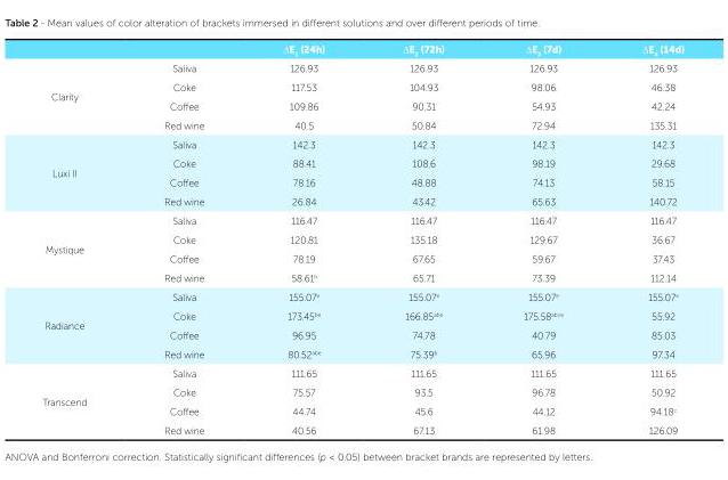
<table><thead><tr><td></td><td></td><td>ΔE<sub>1</sub> (24h)</td><td>ΔE<sub>2</sub> (72h)</td><td>ΔE<sub>3</sub> (7d)</td><td>ΔE<sub>4</sub> (14d)</td></tr></thead><tbody><tr><td rowspan="4">Clarity</td><td>Saliva</td><td>126.93</td><td>126.93</td><td>126.93</td><td>126.93</td></tr><tr><td>Coke</td><td>117.53</td><td>104.93</td><td>98.06</td><td>46.38</td></tr><tr><td>Coffee</td><td>109.86</td><td>90.31</td><td>54.93</td><td>42.24</td></tr><tr><td>Red wine</td><td>40.5</td><td>50.84</td><td>72.94</td><td>135.31</td></tr><tr><td rowspan="4">Luxi II</td><td>Saliva</td><td>142.3</td><td>142.3</td><td>142.3</td><td>142.3</td></tr><tr><td>Coke</td><td>88.41</td><td>108.6</td><td>98.19</td><td>29.68</td></tr><tr><td>Coffee</td><td>78.16</td><td>48.88</td><td>74.13</td><td>58.15</td></tr><tr><td>Red wine</td><td>26.84</td><td>43.42</td><td>65.63</td><td>140.72</td></tr><tr><td rowspan="4">Mystique</td><td>Saliva</td><td>116.47</td><td>116.47</td><td>116.47</td><td>116.47</td></tr><tr><td>Coke</td><td>120.81</td><td>135.18</td><td>129.67</td><td>36.67</td></tr><tr><td>Coffee</td><td>78.19</td><td>67.65</td><td>59.67</td><td>37.43</td></tr><tr><td>Red wine</td><td>58.61<sup>b</sup></td><td>65.71</td><td>73.39</td><td>112.14</td></tr><tr><td rowspan="4">Radiance</td><td>Saliva</td><td>155.07<sup>e</sup></td><td>155.07<sup>e</sup></td><td>155.07<sup>e</sup></td><td>155.07<sup>e</sup></td></tr><tr><td>Coke</td><td>173.45<sup>be</sup></td><td>166.85<sup>abe</sup></td><td>175.58<sup>abce</sup></td><td>55.92</td></tr><tr><td>Coffee</td><td>96.95</td><td>74.78</td><td>40.79</td><td>85.03</td></tr><tr><td>Red wine</td><td>80.52<sup>abe</sup></td><td>75.39<sup>b</sup></td><td>65.96</td><td>97.34</td></tr><tr><td rowspan="4">Transcend</td><td>Saliva</td><td>111.65</td><td>111.65</td><td>111.65</td><td>111.65</td></tr><tr><td>Coke</td><td>75.57</td><td>93.5</td><td>96.78</td><td>50.92</td></tr><tr><td>Coffee</td><td>44.74</td><td>45.6</td><td>44.12</td><td>94.18<sup>c</sup></td></tr><tr><td>Red wine</td><td>40.56</td><td>67.13</td><td>61.98</td><td>126.09</td></tr></tbody></table>